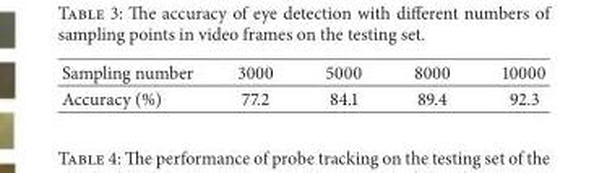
<table><tbody><tr><td>Sampling number</td><td>3000</td><td>5000</td><td>8000</td><td>10000</td></tr><tr><td>Accuracy (%)</td><td>77.2</td><td>84.1</td><td>89.4</td><td>92.3</td></tr></tbody></table>